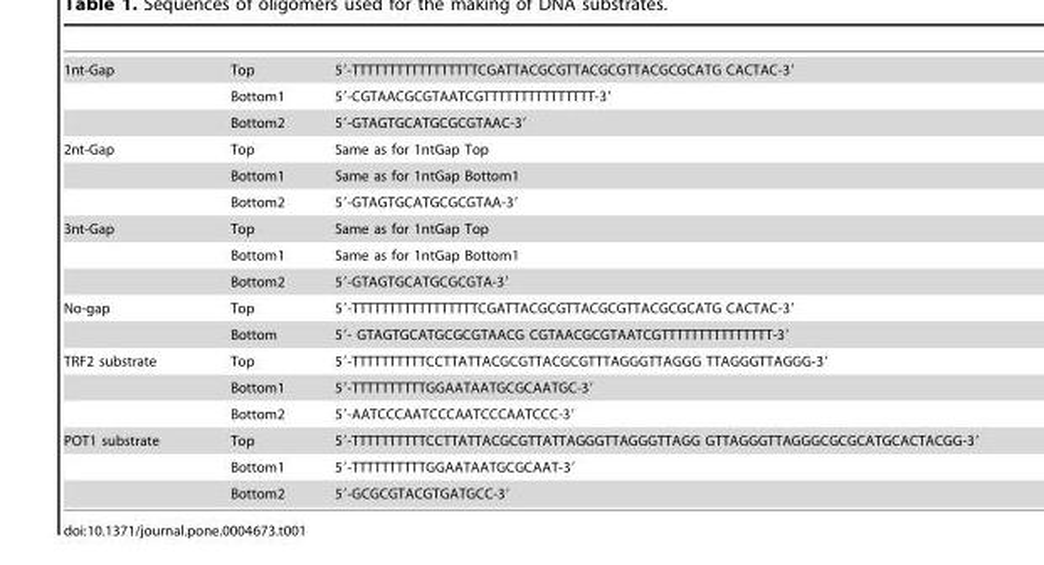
<table><tbody><tr><td rowspan="3">1nt-Gap</td><td>Top</td><td>5′-TTTTTTTTTTTTTTTTTCGATTACGCGTTACGCGTTACGCGCATG CACTAC-3′</td></tr><tr><td>Bottom1</td><td>5′-CGTAACGCGTAATCGTTTTTTTTTTTTTTT-3′</td></tr><tr><td>Bottom2</td><td>5′-GTAGTGCATGCGCGTAAC-3′</td></tr><tr><td rowspan="3">2nt-Gap</td><td>Top</td><td>Same as for 1ntGap Top</td></tr><tr><td>Bottom1</td><td>Same as for 1ntGap Bottom1</td></tr><tr><td>Bottom2</td><td>5′-GTAGTGCATGCGCGTAA-3′</td></tr><tr><td rowspan="3">3nt-Gap</td><td>Top</td><td>Same as for 1ntGap Top</td></tr><tr><td>Bottom1</td><td>Same as for 1ntGap Bottom1</td></tr><tr><td>Bottom2</td><td>5′-GTAGTGCATGCGCGTA-3′</td></tr><tr><td rowspan="2">No-gap</td><td>Top</td><td>5′-TTTTTTTTTTTTTTTTTCGATTACGCGTTACGCGTTACGCGCATG CACTAC-3′</td></tr><tr><td>Bottom</td><td>5′- GTAGTGCATGCGCGTAACG CGTAACGCGTAATCGTTTTTTTTTTTTTTT-3′</td></tr><tr><td rowspan="3">TRF2 substrate</td><td>Top</td><td>5′-TTTTTTTTTTCCTTATTACGCGTTACGCGTTTAGGGTTAGGG TTAGGGTTAGGG-3′</td></tr><tr><td>Bottom1</td><td>5′-TTTTTTTTTTGGAATAATGCGCAATGC-3′</td></tr><tr><td>Bottom2</td><td>5′-AATCCCAATCCCAATCCCAATCCC-3′</td></tr><tr><td rowspan="3">POT1 substrate</td><td>Top</td><td>5′-TTTTTTTTTTCCTTATTACGCGTTATTAGGGTTAGGGTTAGG GTTAGGGTTAGGGCGCGCATGCACTACGG-3′</td></tr><tr><td>Bottom1</td><td>5′-TTTTTTTTTTGGAATAATGCGCAAT-3′</td></tr><tr><td>Bottom2</td><td>5′-GCGCGTACGTGATGCC-3′</td></tr></tbody></table>